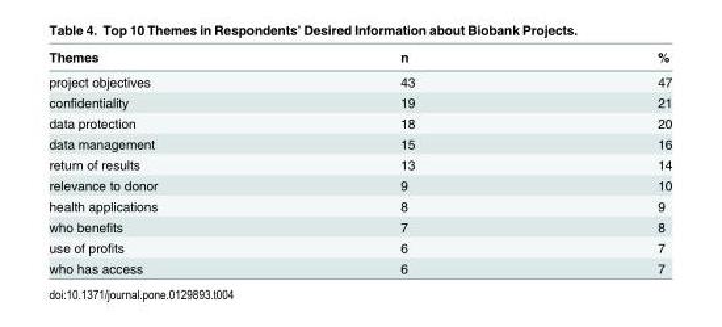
<table><thead><tr><td>Themes</td><td>n</td><td>%</td></tr></thead><tbody><tr><td>project objectives</td><td>43</td><td>47</td></tr><tr><td>confidentiality</td><td>19</td><td>21</td></tr><tr><td>data protection</td><td>18</td><td>20</td></tr><tr><td>data management</td><td>15</td><td>16</td></tr><tr><td>return of results</td><td>13</td><td>14</td></tr><tr><td>relevance to donor</td><td>9</td><td>10</td></tr><tr><td>health applications</td><td>8</td><td>9</td></tr><tr><td>who benefits</td><td>7</td><td>8</td></tr><tr><td>use of profits</td><td>6</td><td>7</td></tr><tr><td>who has access</td><td>6</td><td>7</td></tr></tbody></table>